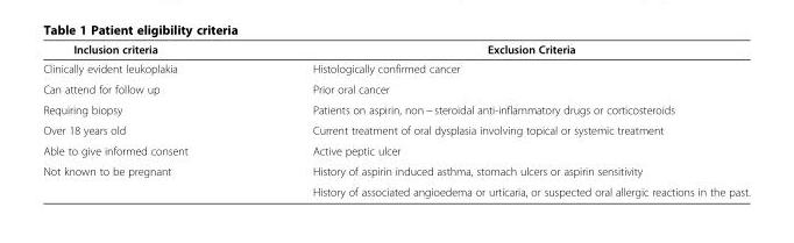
<table><thead><tr><td>Inclusion criteria</td><td>Exclusion Criteria</td></tr></thead><tbody><tr><td>Clinically evident leukoplakia</td><td>Histologically confirmed cancer</td></tr><tr><td>Can attend for follow up</td><td>Prior oral cancer</td></tr><tr><td>Requiring biopsy</td><td>Patients on aspirin, non − steroidal anti-inflammatory drugs or corticosteroids</td></tr><tr><td>Over 18 years old</td><td>Current treatment of oral dysplasia involving topical or systemic treatment</td></tr><tr><td>Able to give informed consent</td><td>Active peptic ulcer</td></tr><tr><td rowspan="2">Not known to be pregnant</td><td>History of aspirin induced asthma, stomach ulcers or aspirin sensitivity</td></tr><tr><td>History of associated angioedema or urticaria, or suspected oral allergic reactions in the past.</td></tr></tbody></table>